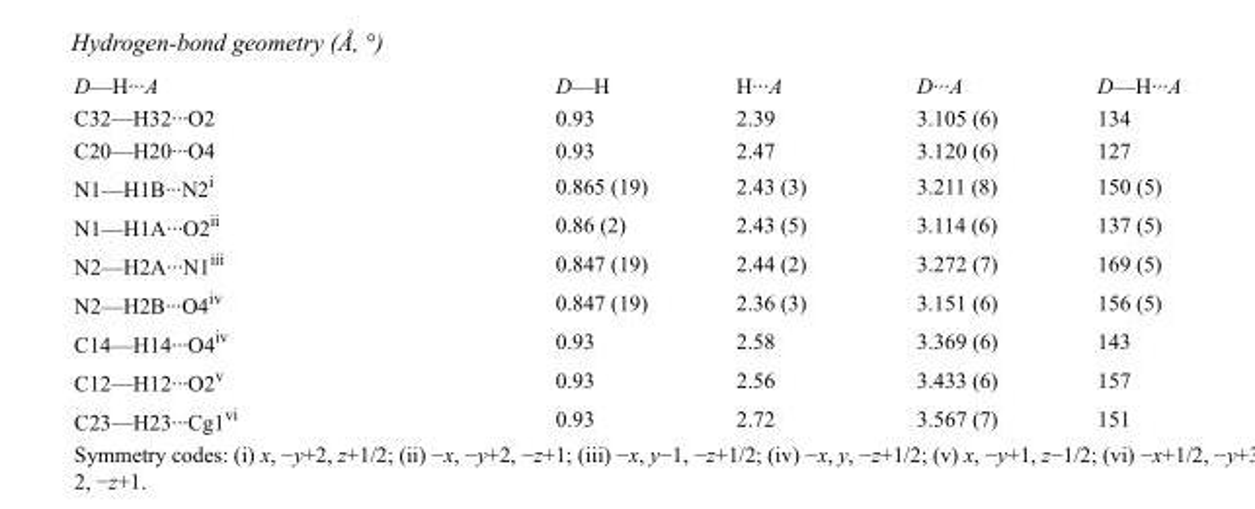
<table><tbody><tr><td>D—H···A</td><td>D—H</td><td>H···A</td><td>D···A</td><td>D—H···A</td></tr><tr><td>C32—H32···O2</td><td>0.93</td><td>2.39</td><td>3.105 (6)</td><td>134</td></tr><tr><td>C20—H20···O4</td><td>0.93</td><td>2.47</td><td>3.120 (6)</td><td>127</td></tr><tr><td>N1—H1B···N2<sup>i</sup></td><td>0.865 (19)</td><td>2.43 (3)</td><td>3.211 (8)</td><td>150 (5)</td></tr><tr><td>N1—H1A···O2<sup>ii</sup></td><td>0.86 (2)</td><td>2.43 (5)</td><td>3.114 (6)</td><td>137 (5)</td></tr><tr><td>N2—H2A···N1<sup>iii</sup></td><td>0.847 (19)</td><td>2.44 (2)</td><td>3.272 (7)</td><td>169 (5)</td></tr><tr><td>N2—H2B···O4<sup>iv</sup></td><td>0.847 (19)</td><td>2.36 (3)</td><td>3.151 (6)</td><td>156 (5)</td></tr><tr><td>C14—H14···O4<sup>iv</sup></td><td>0.93</td><td>2.58</td><td>3.369 (6)</td><td>143</td></tr><tr><td>C12—H12···O2<sup>v</sup></td><td>0.93</td><td>2.56</td><td>3.433 (6)</td><td>157</td></tr><tr><td>C23—H23···Cg1<sup>vi</sup></td><td>0.93</td><td>2.72</td><td>3.567 (7)</td><td>151</td></tr></tbody></table>